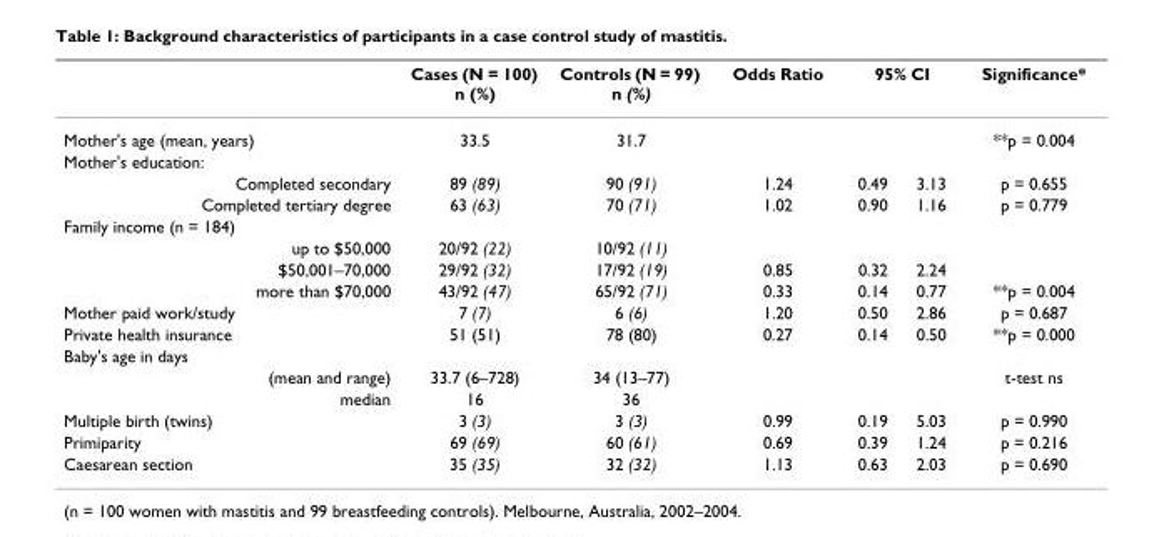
<table><thead><tr><td rowspan="2">Mother&#x27;s age (mean, years)</td><td rowspan="2">Cases (N = 100) n (%) 33.5</td><td rowspan="2">Controls (N = 99) n (%) 31.7</td><td rowspan="2">Odds Ratio</td><td colspan="2">95% CI</td><td rowspan="2">Significance* **p = 0.004</td></tr><tr><td></td><td></td></tr></thead><tbody><tr><td colspan="7">Mother&#x27;s education:</td></tr><tr><td>Completed secondary</td><td>89 (89)</td><td>90 (91)</td><td>1.24</td><td>0.49</td><td>3.13</td><td>p = 0.655</td></tr><tr><td>Completed tertiary degree</td><td>63 (63)</td><td>70 (71)</td><td>1.02</td><td>0.90</td><td>1.16</td><td>p = 0.779</td></tr><tr><td colspan="7">Family income (n = 184)</td></tr><tr><td>up to $50,000</td><td>20/92 (22)</td><td>10/92 (11)</td><td></td><td></td><td></td><td></td></tr><tr><td>$50,001–70,000</td><td>29/92 (32)</td><td>17/92 (19)</td><td>0.85</td><td>0.32</td><td>2.24</td><td></td></tr><tr><td>more than $70,000</td><td>43/92 (47)</td><td>65/92 (71)</td><td>0.33</td><td>0.14</td><td>0.77</td><td>**p = 0.004</td></tr><tr><td>Mother paid work/study</td><td>7 (7)</td><td>6 (6)</td><td>1.20</td><td>0.50</td><td>2.86</td><td>p = 0.687</td></tr><tr><td>Private health insurance</td><td>51 (51)</td><td>78 (80)</td><td>0.27</td><td>0.14</td><td>0.50</td><td>**p = 0.000</td></tr><tr><td colspan="7">Baby&#x27;s age in days</td></tr><tr><td>(mean and range)</td><td>33.7 (6–728)</td><td>34 (13–77)</td><td></td><td></td><td></td><td>t-test ns</td></tr><tr><td>median</td><td>16</td><td>36</td><td></td><td></td><td></td><td></td></tr><tr><td>Multiple birth (twins)</td><td>3 (3)</td><td>3 (3)</td><td>0.99</td><td>0.19</td><td>5.03</td><td>p = 0.990</td></tr><tr><td>Primiparity</td><td>69 (69)</td><td>60 (61)</td><td>0.69</td><td>0.39</td><td>1.24</td><td>p = 0.216</td></tr><tr><td>Caesarean section</td><td>35 (35)</td><td>32 (32)</td><td>1.13</td><td>0.63</td><td>2.03</td><td>p = 0.690</td></tr></tbody></table>